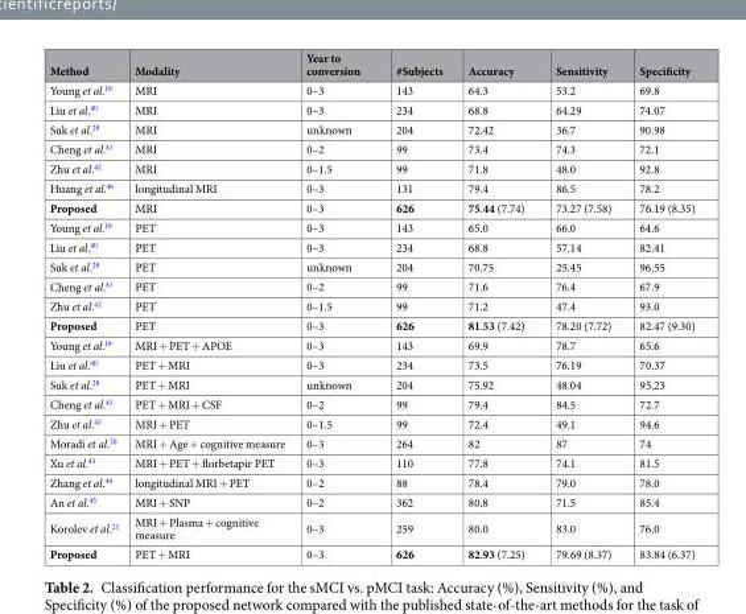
<table><thead><tr><td>Method</td><td>Modality</td><td>Year to conversion</td><td>#Subjects</td><td>Accuracy</td><td>Sensitivity</td><td>Specificity</td></tr></thead><tbody><tr><td>Young et al.<sup>18</sup></td><td>MRI</td><td>0–3</td><td>143</td><td>64.3</td><td>53.2</td><td>69.8</td></tr><tr><td>Liu et al.<sup>40</sup></td><td>MRI</td><td>0–3</td><td>234</td><td>68.8</td><td>64.29</td><td>74.07</td></tr><tr><td>Suk et al.<sup>28</sup></td><td>MRI</td><td>unknown</td><td>204</td><td>72.42</td><td>36.7</td><td>90.98</td></tr><tr><td>Cheng et al.<sup>41</sup></td><td>MRI</td><td>0–2</td><td>99</td><td>73.4</td><td>74.3</td><td>72.1</td></tr><tr><td>Zhu et al.<sup>42</sup></td><td>MRI</td><td>0–1.5</td><td>99</td><td>71.8</td><td>48.0</td><td>92.8</td></tr><tr><td>Huang et al.<sup>46</sup></td><td>longitudinal MRI</td><td>0–3</td><td>131</td><td>79.4</td><td>86.5</td><td>78.2</td></tr><tr><td>Proposed</td><td>MRI</td><td>0–3</td><td>626</td><td>75.44 (7.74)</td><td>73.27 (7.58)</td><td>76.19 (8.35)</td></tr><tr><td>Young et al.<sup>18</sup></td><td>PET</td><td>0–3</td><td>143</td><td>65.0</td><td>66.0</td><td>64.6</td></tr><tr><td>Liu et al.<sup>40</sup></td><td>PET</td><td>0–3</td><td>234</td><td>68.8</td><td>57.14</td><td>82.41</td></tr><tr><td>Suk et al.<sup>28</sup></td><td>PET</td><td>unknown</td><td>204</td><td>70.75</td><td>25.45</td><td>96.55</td></tr><tr><td>Cheng et al.<sup>41</sup></td><td>PET</td><td>0–2</td><td>99</td><td>71.6</td><td>76.4</td><td>67.9</td></tr><tr><td>Zhu et al.<sup>42</sup></td><td>PET</td><td>0–1.5</td><td>99</td><td>71.2</td><td>47.4</td><td>93.0</td></tr><tr><td>Proposed</td><td>PET</td><td>0–3</td><td>626</td><td>81.53 (7.42)</td><td>78.20 (7.72)</td><td>82.47 (9.30)</td></tr><tr><td>Young et al.<sup>18</sup></td><td>MRI + PET + APOE</td><td>0–3</td><td>143</td><td>69.9</td><td>78.7</td><td>65.6</td></tr><tr><td>Liu et al.<sup>40</sup></td><td>PET + MRI</td><td>0–3</td><td>234</td><td>73.5</td><td>76.19</td><td>70.37</td></tr><tr><td>Suk et al.<sup>28</sup></td><td>PET + MRI</td><td>unknown</td><td>204</td><td>75.92</td><td>48.04</td><td>95.23</td></tr><tr><td>Cheng et al.<sup>41</sup></td><td>PET + MRI + CSF</td><td>0–2</td><td>99</td><td>79.4</td><td>84.5</td><td>72.7</td></tr><tr><td>Zhu et al.<sup>42</sup></td><td>MRI + PET</td><td>0–1.5</td><td>99</td><td>72.4</td><td>49.1</td><td>94.6</td></tr><tr><td>Moradi et al.<sup>20</sup></td><td>MRI + Age + cognitive measure</td><td>0–3</td><td>264</td><td>82</td><td>87</td><td>74</td></tr><tr><td>Xu et al.<sup>43</sup></td><td>MRI + PET + florbetapir PET</td><td>0–3</td><td>110</td><td>77.8</td><td>74.1</td><td>81.5</td></tr><tr><td>Zhang et al.<sup>44</sup></td><td>longitudinal MRI + PET</td><td>0–2</td><td>88</td><td>78.4</td><td>79.0</td><td>78.0</td></tr><tr><td>An et al.<sup>45</sup></td><td>MRI + SNP</td><td>0–2</td><td>362</td><td>80.8</td><td>71.5</td><td>85.4</td></tr><tr><td>Korolev et al.<sup>21</sup></td><td>MRI + Plasma + cognitive measure</td><td>0–3</td><td>259</td><td>80.0</td><td>83.0</td><td>76.0</td></tr><tr><td>Proposed</td><td>PET + MRI</td><td>0–3</td><td>626</td><td>82.93 (7.25)</td><td>79.69 (8.37)</td><td>83.84 (6.37)</td></tr></tbody></table>